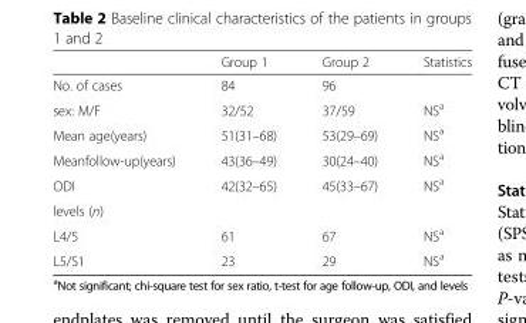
<table><thead><tr><td></td><td>Group 1</td><td>Group 2</td><td>Statistics</td></tr></thead><tbody><tr><td>No. of cases</td><td>84</td><td>96</td><td></td></tr><tr><td>sex: M/F</td><td>32/52</td><td>37/59</td><td>NS<sup>a</sup></td></tr><tr><td>Mean age(years)</td><td>51(31–68)</td><td>53(29–69)</td><td>NS<sup>a</sup></td></tr><tr><td>Meanfollow-up(years)</td><td>43(36–49)</td><td>30(24–40)</td><td>NS<sup>a</sup></td></tr><tr><td>ODI</td><td>42(32–65)</td><td>45(33–67)</td><td>NS<sup>a</sup></td></tr><tr><td colspan="4">levels (n)</td></tr><tr><td>L4/5</td><td>61</td><td>67</td><td>NS<sup>a</sup></td></tr><tr><td>L5/S1</td><td>23</td><td>29</td><td>NS<sup>a</sup></td></tr></tbody></table>